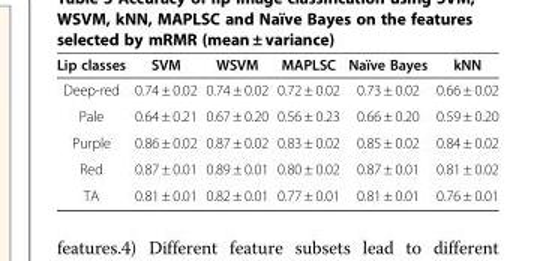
<table><thead><tr><td>Lip classes</td><td>SVM</td><td>WSVM</td><td>MAPLSC</td><td>Naïve Bayes</td><td>kNN</td></tr></thead><tbody><tr><td>Deep-red</td><td>0.74 ± 0.02</td><td>0.74 ± 0.02</td><td>0.72 ± 0.02</td><td>0.73 ± 0.02</td><td>0.66 ± 0.02</td></tr><tr><td>Pale</td><td>0.64 ± 0.21</td><td>0.67 ± 0.20</td><td>0.56 ± 0.23</td><td>0.66 ± 0.20</td><td>0.59 ± 0.20</td></tr><tr><td>Purple</td><td>0.86 ± 0.02</td><td>0.87 ± 0.02</td><td>0.83 ± 0.02</td><td>0.85 ± 0.02</td><td>0.84 ± 0.02</td></tr><tr><td>Red</td><td>0.87 ± 0.01</td><td>0.89 ± 0.01</td><td>0.80 ± 0.02</td><td>0.87 ± 0.01</td><td>0.81 ± 0.02</td></tr><tr><td>TA</td><td>0.81 ± 0.01</td><td>0.82 ± 0.01</td><td>0.77 ± 0.01</td><td>0.81 ± 0.01</td><td>0.76 ± 0.01</td></tr></tbody></table>